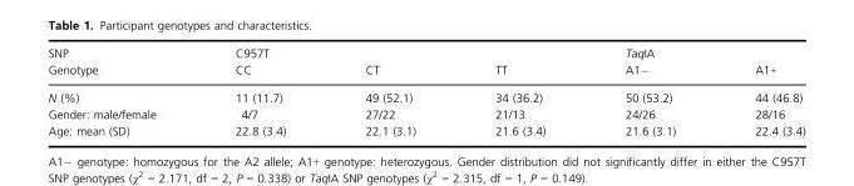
<table><thead><tr><td rowspan="2">SNP Genotype</td><td colspan="3">C957T</td><td colspan="2">TaqIA</td></tr><tr><td>CC</td><td>CT</td><td>TT</td><td>A1−</td><td>A1+</td></tr></thead><tbody><tr><td>N (%)</td><td>11 (11.7)</td><td>49 (52.1)</td><td>34 (36.2)</td><td>50 (53.2)</td><td>44 (46.8)</td></tr><tr><td>Gender: male/female</td><td>4/7</td><td>27/22</td><td>21/13</td><td>24/26</td><td>28/16</td></tr><tr><td>Age: mean (SD)</td><td>22.8 (3.4)</td><td>22.1 (3.1)</td><td>21.6 (3.4)</td><td>21.6 (3.1)</td><td>22.4 (3.4)</td></tr></tbody></table>